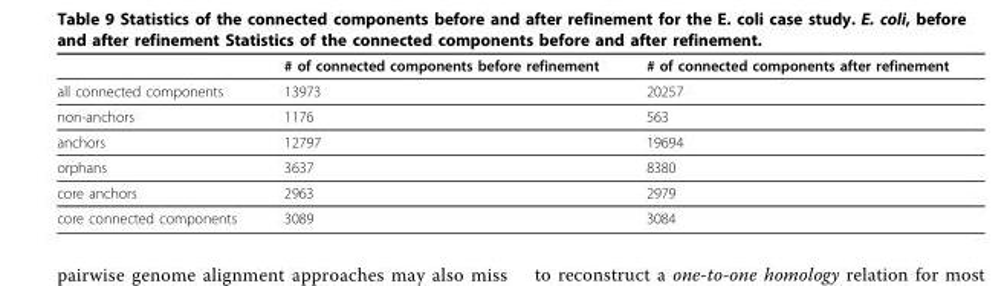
<table><thead><tr><td></td><td># of connected components before refinement</td><td># of connected components after refinement</td></tr></thead><tbody><tr><td>all connected components</td><td>13973</td><td>20257</td></tr><tr><td>non-anchors</td><td>1176</td><td>563</td></tr><tr><td>anchors</td><td>12797</td><td>19694</td></tr><tr><td>orphans</td><td>3637</td><td>8380</td></tr><tr><td>core anchors</td><td>2963</td><td>2979</td></tr><tr><td>core connected components</td><td>3089</td><td>3084</td></tr></tbody></table>